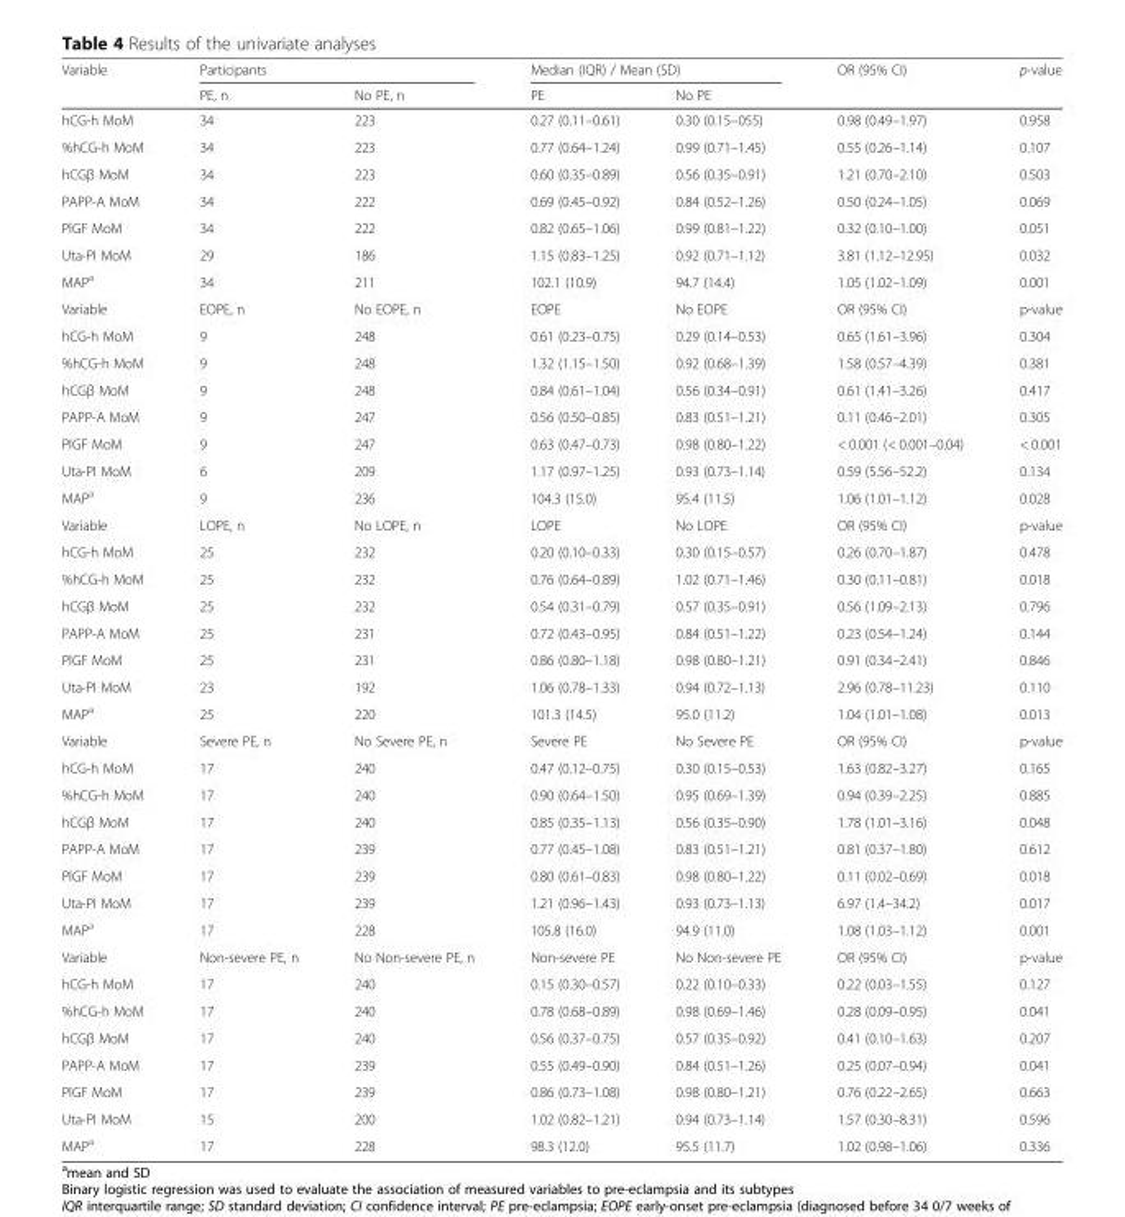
<table><thead><tr><td rowspan="2">Variable</td><td colspan="2">Participants</td><td colspan="2">Median (IQR) / Mean (SD)</td><td rowspan="2">OR (95% CI)</td><td rowspan="2">p-value</td></tr><tr><td>PE, n</td><td>No PE, n</td><td>PE</td><td>No PE</td></tr></thead><tbody><tr><td>hCG-h MoM</td><td>34</td><td>223</td><td>0.27 (0.11–0.61)</td><td>0.30 (0.15–055)</td><td>0.98 (0.49–1.97)</td><td>0.958</td></tr><tr><td>%hCG-h MoM</td><td>34</td><td>223</td><td>0.77 (0.64–1.24)</td><td>0.99 (0.71–1.45)</td><td>0.55 (0.26–1.14)</td><td>0.107</td></tr><tr><td>hCGβ MoM</td><td>34</td><td>223</td><td>0.60 (0.35–0.89)</td><td>0.56 (0.35–0.91)</td><td>1.21 (0.70–2.10)</td><td>0.503</td></tr><tr><td>PAPP-A MoM</td><td>34</td><td>222</td><td>0.69 (0.45–0.92)</td><td>0.84 (0.52–1.26)</td><td>0.50 (0.24–1.05)</td><td>0.069</td></tr><tr><td>PlGF MoM</td><td>34</td><td>222</td><td>0.82 (0.65–1.06)</td><td>0.99 (0.81–1.22)</td><td>0.32 (0.10–1.00)</td><td>0.051</td></tr><tr><td>Uta-PI MoM</td><td>29</td><td>186</td><td>1.15 (0.83–1.25)</td><td>0.92 (0.71–1.12)</td><td>3.81 (1.12–12.95)</td><td>0.032</td></tr><tr><td>MAP<sup>a</sup></td><td>34</td><td>211</td><td>102.1 (10.9)</td><td>94.7 (14.4)</td><td>1.05 (1.02–1.09)</td><td>0.001</td></tr><tr><td>Variable</td><td>EOPE, n</td><td>No EOPE, n</td><td>EOPE</td><td>No EOPE</td><td>OR (95% CI)</td><td>p-value</td></tr><tr><td>hCG-h MoM</td><td>9</td><td>248</td><td>0.61 (0.23–0.75)</td><td>0.29 (0.14–0.53)</td><td>0.65 (1.61–3.96)</td><td>0.304</td></tr><tr><td>%hCG-h MoM</td><td>9</td><td>248</td><td>1.32 (1.15–1.50)</td><td>0.92 (0.68–1.39)</td><td>1.58 (0.57–4.39)</td><td>0.381</td></tr><tr><td>hCGβ MoM</td><td>9</td><td>248</td><td>0.84 (0.61–1.04)</td><td>0.56 (0.34–0.91)</td><td>0.61 (1.41–3.26)</td><td>0.417</td></tr><tr><td>PAPP-A MoM</td><td>9</td><td>247</td><td>0.56 (0.50–0.85)</td><td>0.83 (0.51–1.21)</td><td>0.11 (0.46–2.01)</td><td>0.305</td></tr><tr><td>PlGF MoM</td><td>9</td><td>247</td><td>0.63 (0.47–0.73)</td><td>0.98 (0.80–1.22)</td><td>&lt; 0.001 (&lt; 0.001–0.04)</td><td>&lt; 0.001</td></tr><tr><td>Uta-PI MoM</td><td>6</td><td>209</td><td>1.17 (0.97–1.25)</td><td>0.93 (0.73–1.14)</td><td>0.59 (5.56–52.2)</td><td>0.134</td></tr><tr><td>MAP<sup>a</sup></td><td>9</td><td>236</td><td>104.3 (15.0)</td><td>95.4 (11.5)</td><td>1.06 (1.01–1.12)</td><td>0.028</td></tr><tr><td>Variable</td><td>LOPE, n</td><td>No LOPE, n</td><td>LOPE</td><td>No LOPE</td><td>OR (95% CI)</td><td>p-value</td></tr><tr><td>hCG-h MoM</td><td>25</td><td>232</td><td>0.20 (0.10–0.33)</td><td>0.30 (0.15–0.57)</td><td>0.26 (0.70–1.87)</td><td>0.478</td></tr><tr><td>%hCG-h MoM</td><td>25</td><td>232</td><td>0.76 (0.64–0.89)</td><td>1.02 (0.71–1.46)</td><td>0.30 (0.11–0.81)</td><td>0.018</td></tr><tr><td>hCGβ MoM</td><td>25</td><td>232</td><td>0.54 (0.31–0.79)</td><td>0.57 (0.35–0.91)</td><td>0.56 (1.09–2.13)</td><td>0.796</td></tr><tr><td>PAPP-A MoM</td><td>25</td><td>231</td><td>0.72 (0.43–0.95)</td><td>0.84 (0.51–1.22)</td><td>0.23 (0.54–1.24)</td><td>0.144</td></tr><tr><td>PlGF MoM</td><td>25</td><td>231</td><td>0.86 (0.80–1.18)</td><td>0.98 (0.80–1.21)</td><td>0.91 (0.34–2.41)</td><td>0.846</td></tr><tr><td>Uta-PI MoM</td><td>23</td><td>192</td><td>1.06 (0.78–1.33)</td><td>0.94 (0.72–1.13)</td><td>2.96 (0.78–11.23)</td><td>0.110</td></tr><tr><td>MAP<sup>a</sup></td><td>25</td><td>220</td><td>101.3 (14.5)</td><td>95.0 (11.2)</td><td>1.04 (1.01–1.08)</td><td>0.013</td></tr><tr><td>Variable</td><td>Severe PE, n</td><td>No Severe PE, n</td><td>Severe PE</td><td>No Severe PE</td><td>OR (95% CI)</td><td>p-value</td></tr><tr><td>hCG-h MoM</td><td>17</td><td>240</td><td>0.47 (0.12–0.75)</td><td>0.30 (0.15–0.53)</td><td>1.63 (0.82–3.27)</td><td>0.165</td></tr><tr><td>%hCG-h MoM</td><td>17</td><td>240</td><td>0.90 (0.64–1.50)</td><td>0.95 (0.69–1.39)</td><td>0.94 (0.39–2.25)</td><td>0.885</td></tr><tr><td>hCGβ MoM</td><td>17</td><td>240</td><td>0.85 (0.35–1.13)</td><td>0.56 (0.35–0.90)</td><td>1.78 (1.01–3.16)</td><td>0.048</td></tr><tr><td>PAPP-A MoM</td><td>17</td><td>239</td><td>0.77 (0.45–1.08)</td><td>0.83 (0.51–1.21)</td><td>0.81 (0.37–1.80)</td><td>0.612</td></tr><tr><td>PlGF MoM</td><td>17</td><td>239</td><td>0.80 (0.61–0.83)</td><td>0.98 (0.80–1.22)</td><td>0.11 (0.02–0.69)</td><td>0.018</td></tr><tr><td>Uta-PI MoM</td><td>17</td><td>239</td><td>1.21 (0.96–1.43)</td><td>0.93 (0.73–1.13)</td><td>6.97 (1.4–34.2)</td><td>0.017</td></tr><tr><td>MAP<sup>a</sup></td><td>17</td><td>228</td><td>105.8 (16.0)</td><td>94.9 (11.0)</td><td>1.08 (1.03–1.12)</td><td>0.001</td></tr><tr><td>Variable</td><td>Non-severe PE, n</td><td>No Non-severe PE, n</td><td>Non-severe PE</td><td>No Non-severe PE</td><td>OR (95% CI)</td><td>p-value</td></tr><tr><td>hCG-h MoM</td><td>17</td><td>240</td><td>0.15 (0.30–0.57)</td><td>0.22 (0.10–0.33)</td><td>0.22 (0.03–1.55)</td><td>0.127</td></tr><tr><td>%hCG-h MoM</td><td>17</td><td>240</td><td>0.78 (0.68–0.89)</td><td>0.98 (0.69–1.46)</td><td>0.28 (0.09–0.95)</td><td>0.041</td></tr><tr><td>hCGβ MoM</td><td>17</td><td>240</td><td>0.56 (0.37–0.75)</td><td>0.57 (0.35–0.92)</td><td>0.41 (0.10–1.63)</td><td>0.207</td></tr><tr><td>PAPP-A MoM</td><td>17</td><td>239</td><td>0.55 (0.49–0.90)</td><td>0.84 (0.51–1.26)</td><td>0.25 (0.07–0.94)</td><td>0.041</td></tr><tr><td>PlGF MoM</td><td>17</td><td>239</td><td>0.86 (0.73–1.08)</td><td>0.98 (0.80–1.21)</td><td>0.76 (0.22–2.65)</td><td>0.663</td></tr><tr><td>Uta-PI MoM</td><td>15</td><td>200</td><td>1.02 (0.82–1.21)</td><td>0.94 (0.73–1.14)</td><td>1.57 (0.30–8.31)</td><td>0.596</td></tr><tr><td>MAP<sup>a</sup></td><td>17</td><td>228</td><td>98.3 (12.0)</td><td>95.5 (11.7)</td><td>1.02 (0.98–1.06)</td><td>0.336</td></tr></tbody></table>